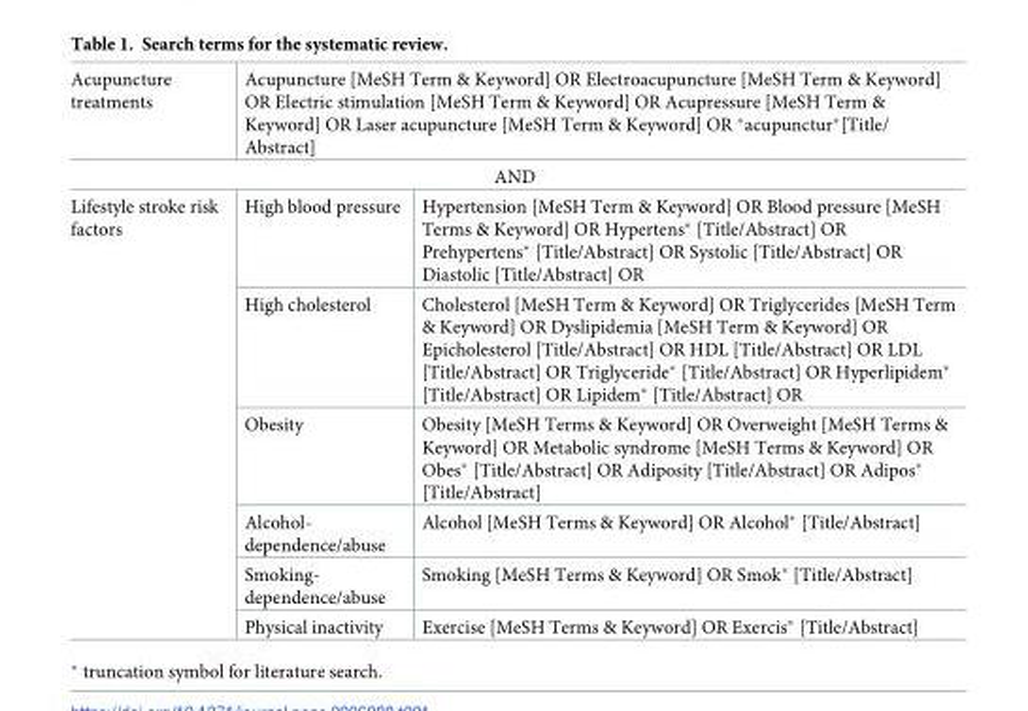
<table><tbody><tr><td>Acupuncture treatments</td><td colspan="2">Acupuncture [MeSH Term &amp; Keyword] OR Electroacupuncture [MeSH Term &amp; Keyword] OR Electric stimulation [MeSH Term &amp; Keyword] OR Acupressure [MeSH Term &amp; Keyword] OR Laser acupuncture [MeSH Term &amp; Keyword] OR *acupunctur*[Title/ Abstract]</td></tr><tr><td colspan="3">AND</td></tr><tr><td rowspan="6">Lifestyle stroke risk factors</td><td>High blood pressure</td><td>Hypertension [MeSH Term &amp; Keyword] OR Blood pressure [MeSH Terms &amp; Keyword] OR Hypertens* [Title/Abstract] OR Prehypertens* [Title/Abstract] OR Systolic [Title/Abstract] OR Diastolic [Title/Abstract] OR</td></tr><tr><td>High cholesterol</td><td>Cholesterol [MeSH Term &amp; Keyword] OR Triglycerides [MeSH Term &amp; Keyword] OR Dyslipidemia [MeSH Term &amp; Keyword] OR Epicholesterol [Title/Abstract] OR HDL [Title/Abstract] OR LDL [Title/Abstract] OR Triglyceride* [Title/Abstract] OR Hyperlipidem* [Title/Abstract] OR Lipidem* [Title/Abstract] OR</td></tr><tr><td>Obesity</td><td>Obesity [MeSH Terms &amp; Keyword] OR Overweight [MeSH Terms &amp; Keyword] OR Metabolic syndrome [MeSH Terms &amp; Keyword] OR Obes* [Title/Abstract] OR Adiposity [Title/Abstract] OR Adipos* [Title/Abstract]</td></tr><tr><td>Alcohol- dependence/abuse</td><td>Alcohol [MeSH Terms &amp; Keyword] OR Alcohol* [Title/Abstract]</td></tr><tr><td>Smoking- dependence/abuse</td><td>Smoking [MeSH Terms &amp; Keyword] OR Smok* [Title/Abstract]</td></tr><tr><td>Physical inactivity</td><td>Exercise [MeSH Terms &amp; Keyword] OR Exercis* [Title/Abstract]</td></tr></tbody></table>